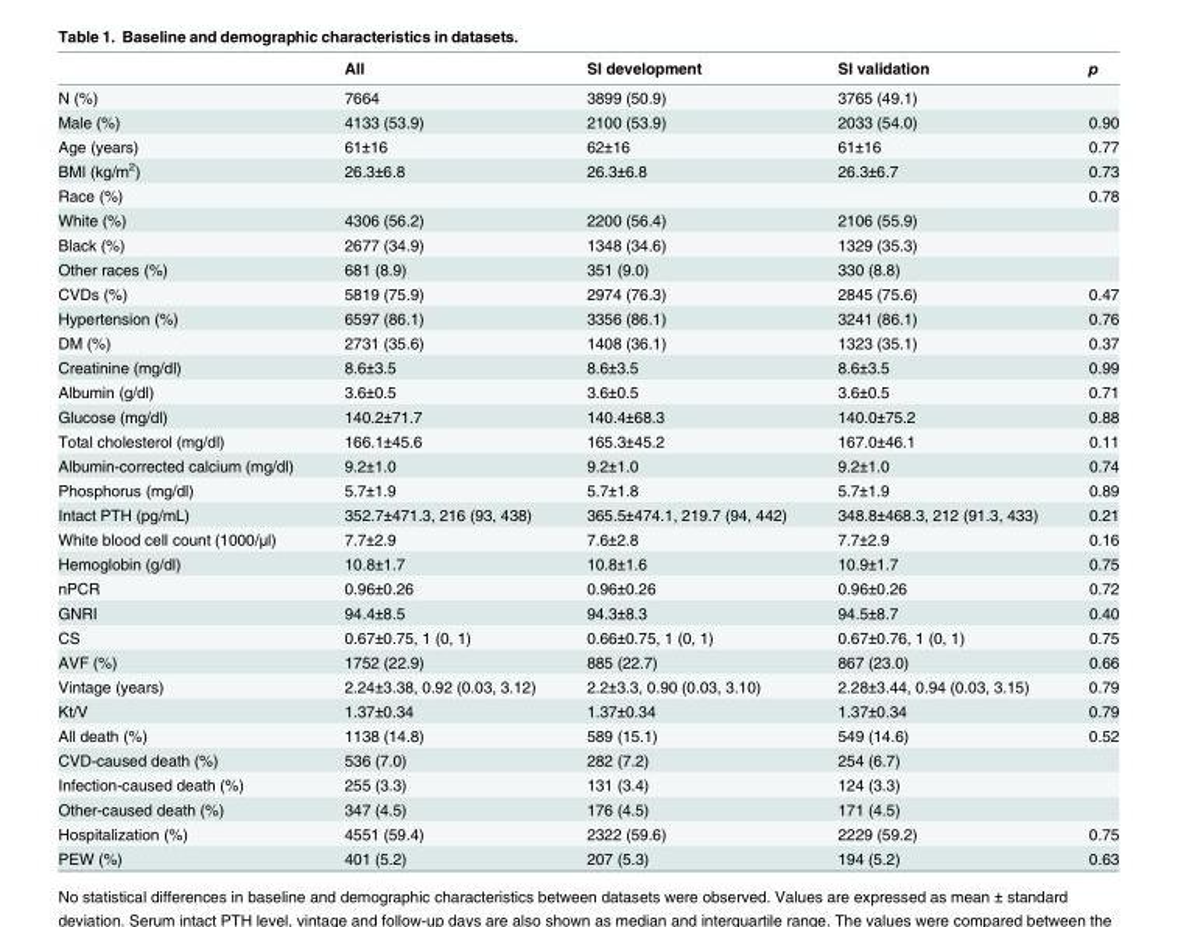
<table><thead><tr><td></td><td>All</td><td>SI development</td><td>SI validation</td><td>p</td></tr></thead><tbody><tr><td>N (%)</td><td>7664</td><td>3899 (50.9)</td><td>3765 (49.1)</td><td></td></tr><tr><td>Male (%)</td><td>4133 (53.9)</td><td>2100 (53.9)</td><td>2033 (54.0)</td><td>0.90</td></tr><tr><td>Age (years)</td><td>61±16</td><td>62±16</td><td>61±16</td><td>0.77</td></tr><tr><td>BMI (kg/m<sup>2</sup>)</td><td>26.3±6.8</td><td>26.3±6.8</td><td>26.3±6.7</td><td>0.73</td></tr><tr><td>Race (%)</td><td></td><td></td><td></td><td>0.78</td></tr><tr><td>White (%)</td><td>4306 (56.2)</td><td>2200 (56.4)</td><td>2106 (55.9)</td><td></td></tr><tr><td>Black (%)</td><td>2677 (34.9)</td><td>1348 (34.6)</td><td>1329 (35.3)</td><td></td></tr><tr><td>Other races (%)</td><td>681 (8.9)</td><td>351 (9.0)</td><td>330 (8.8)</td><td></td></tr><tr><td>CVDs (%)</td><td>5819 (75.9)</td><td>2974 (76.3)</td><td>2845 (75.6)</td><td>0.47</td></tr><tr><td>Hypertension (%)</td><td>6597 (86.1)</td><td>3356 (86.1)</td><td>3241 (86.1)</td><td>0.76</td></tr><tr><td>DM (%)</td><td>2731 (35.6)</td><td>1408 (36.1)</td><td>1323 (35.1)</td><td>0.37</td></tr><tr><td>Creatinine (mg/dl)</td><td>8.6±3.5</td><td>8.6±3.5</td><td>8.6±3.5</td><td>0.99</td></tr><tr><td>Albumin (g/dl)</td><td>3.6±0.5</td><td>3.6±0.5</td><td>3.6±0.5</td><td>0.71</td></tr><tr><td>Glucose (mg/dl)</td><td>140.2±71.7</td><td>140.4±68.3</td><td>140.0±75.2</td><td>0.88</td></tr><tr><td>Total cholesterol (mg/dl)</td><td>166.1±45.6</td><td>165.3±45.2</td><td>167.0±46.1</td><td>0.11</td></tr><tr><td>Albumin-corrected calcium (mg/dl)</td><td>9.2±1.0</td><td>9.2±1.0</td><td>9.2±1.0</td><td>0.74</td></tr><tr><td>Phosphorus (mg/dl)</td><td>5.7±1.9</td><td>5.7±1.8</td><td>5.7±1.9</td><td>0.89</td></tr><tr><td>Intact PTH (pg/mL)</td><td>352.7±471.3, 216 (93, 438)</td><td>365.5±474.1, 219.7 (94, 442)</td><td>348.8±468.3, 212 (91.3, 433)</td><td>0.21</td></tr><tr><td>White blood cell count (1000/μl)</td><td>7.7±2.9</td><td>7.6±2.8</td><td>7.7±2.9</td><td>0.16</td></tr><tr><td>Hemoglobin (g/dl)</td><td>10.8±1.7</td><td>10.8±1.6</td><td>10.9±1.7</td><td>0.75</td></tr><tr><td>nPCR</td><td>0.96±0.26</td><td>0.96±0.26</td><td>0.96±0.26</td><td>0.72</td></tr><tr><td>GNRI</td><td>94.4±8.5</td><td>94.3±8.3</td><td>94.5±8.7</td><td>0.40</td></tr><tr><td>CS</td><td>0.67±0.75, 1 (0, 1)</td><td>0.66±0.75, 1 (0, 1)</td><td>0.67±0.76, 1 (0, 1)</td><td>0.75</td></tr><tr><td>AVF (%)</td><td>1752 (22.9)</td><td>885 (22.7)</td><td>867 (23.0)</td><td>0.66</td></tr><tr><td>Vintage (years)</td><td>2.24±3.38, 0.92 (0.03, 3.12)</td><td>2.2±3.3, 0.90 (0.03, 3.10)</td><td>2.28±3.44, 0.94 (0.03, 3.15)</td><td>0.79</td></tr><tr><td>Kt/V</td><td>1.37±0.34</td><td>1.37±0.34</td><td>1.37±0.34</td><td>0.79</td></tr><tr><td>All death (%)</td><td>1138 (14.8)</td><td>589 (15.1)</td><td>549 (14.6)</td><td>0.52</td></tr><tr><td>CVD-caused death (%)</td><td>536 (7.0)</td><td>282 (7.2)</td><td>254 (6.7)</td><td></td></tr><tr><td>Infection-caused death (%)</td><td>255 (3.3)</td><td>131 (3.4)</td><td>124 (3.3)</td><td></td></tr><tr><td>Other-caused death (%)</td><td>347 (4.5)</td><td>176 (4.5)</td><td>171 (4.5)</td><td></td></tr><tr><td>Hospitalization (%)</td><td>4551 (59.4)</td><td>2322 (59.6)</td><td>2229 (59.2)</td><td>0.75</td></tr><tr><td>PEW (%)</td><td>401 (5.2)</td><td>207 (5.3)</td><td>194 (5.2)</td><td>0.63</td></tr></tbody></table>